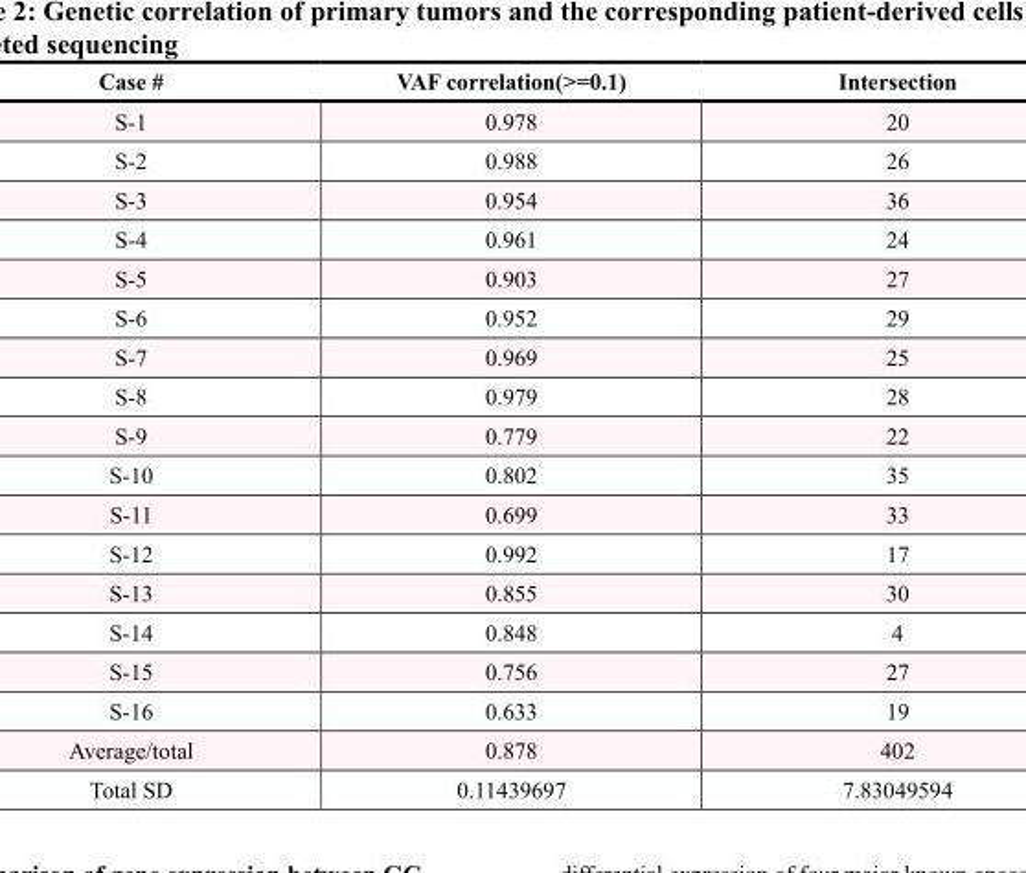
<table><thead><tr><td>Case #</td><td>VAF correlation(&gt;=0.1)</td><td>Intersection</td></tr></thead><tbody><tr><td>S-1</td><td>0.978</td><td>20</td></tr><tr><td>S-2</td><td>0.988</td><td>26</td></tr><tr><td>S-3</td><td>0.954</td><td>36</td></tr><tr><td>S-4</td><td>0.961</td><td>24</td></tr><tr><td>S-5</td><td>0.903</td><td>27</td></tr><tr><td>S-6</td><td>0.952</td><td>29</td></tr><tr><td>S-7</td><td>0.969</td><td>25</td></tr><tr><td>S-8</td><td>0.979</td><td>28</td></tr><tr><td>S-9</td><td>0.779</td><td>22</td></tr><tr><td>S-10</td><td>0.802</td><td>35</td></tr><tr><td>S-11</td><td>0.699</td><td>33</td></tr><tr><td>S-12</td><td>0.992</td><td>17</td></tr><tr><td>S-13</td><td>0.855</td><td>30</td></tr><tr><td>S-14</td><td>0.848</td><td>4</td></tr><tr><td>S-15</td><td>0.756</td><td>27</td></tr><tr><td>S-16</td><td>0.633</td><td>19</td></tr><tr><td>Average/total</td><td>0.878</td><td>402</td></tr><tr><td>Total SD</td><td>0.11439697</td><td>7.83049594</td></tr></tbody></table>